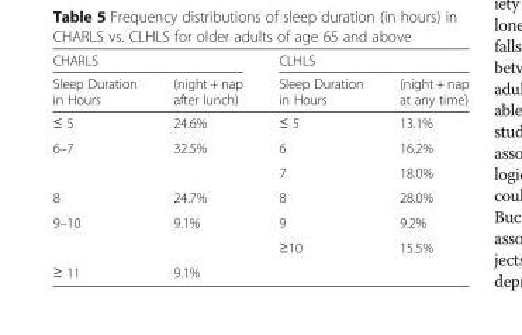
<table><thead><tr><td colspan="2">CHARLS</td><td colspan="2">CLHLS</td></tr><tr><td>Sleep Duration in Hours</td><td>(night + nap after lunch)</td><td>Sleep Duration in Hours</td><td>(night + nap at any time)</td></tr></thead><tbody><tr><td>≤ 5</td><td>24.6%</td><td>≤ 5</td><td>13.1%</td></tr><tr><td rowspan="2">6–7</td><td rowspan="2">32.5%</td><td>6</td><td>16.2%</td></tr><tr><td>7</td><td>18.0%</td></tr><tr><td>8</td><td>24.7%</td><td>8</td><td>28.0%</td></tr><tr><td rowspan="2">9–10</td><td>9.1%</td><td>9</td><td>9.2%</td></tr><tr><td></td><td>≥10</td><td>15.5%</td></tr><tr><td>≥ 11</td><td>9.1%</td><td></td><td></td></tr></tbody></table>